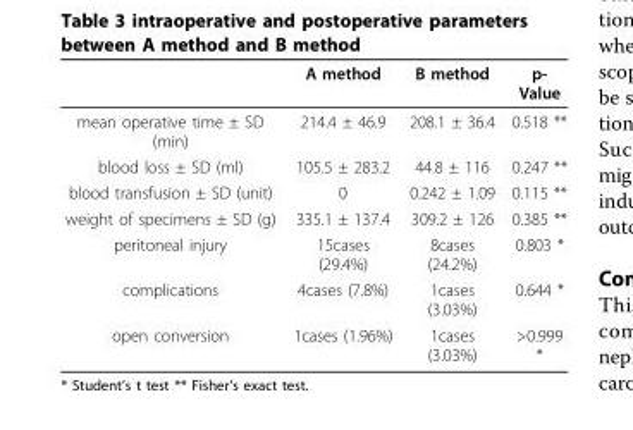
<table><thead><tr><td></td><td>A method</td><td>B method</td><td>p- Value</td></tr></thead><tbody><tr><td>mean operative time ± SD (min)</td><td>214.4 ± 46.9</td><td>208.1 ± 36.4</td><td>0.518 **</td></tr><tr><td>blood loss ± SD (ml)</td><td>105.5 ± 283.2</td><td>44.8 ± 116</td><td>0.247 **</td></tr><tr><td>blood transfusion ± SD (unit)</td><td>0</td><td>0.242 ± 1.09</td><td>0.115 **</td></tr><tr><td>weight of specimens ± SD (g)</td><td>335.1 ± 137.4</td><td>309.2 ± 126</td><td>0.385 **</td></tr><tr><td>peritoneal injury</td><td>15cases (29.4%)</td><td>8cases (24.2%)</td><td>0.803 *</td></tr><tr><td>complications</td><td>4cases (7.8%)</td><td>1cases (3.03%)</td><td>0.644 *</td></tr><tr><td>open conversion</td><td>1cases (1.96%)</td><td>1cases (3.03%)</td><td>&gt;0.999 *</td></tr></tbody></table>